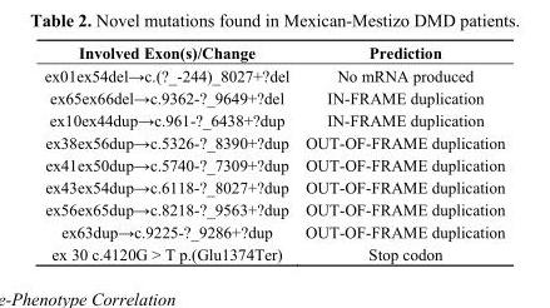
<table><thead><tr><td>Involved Exon(s)/Change</td><td>Prediction</td></tr></thead><tbody><tr><td>ex01ex54del→c.(?_-244)_8027+?del</td><td>No mRNA produced</td></tr><tr><td>ex65ex66del→c.9362-?_9649+?del</td><td>IN-FRAME duplication</td></tr><tr><td>ex10ex44dup→c.961-?_6438+?dup</td><td>IN-FRAME duplication</td></tr><tr><td>ex38ex56dup→c.5326-?_8390+?dup</td><td>OUT-OF-FRAME duplication</td></tr><tr><td>ex41ex50dup→c.5740-?_7309+?dup</td><td>OUT-OF-FRAME duplication</td></tr><tr><td>ex43ex54dup→c.6118-?_8027+?dup</td><td>OUT-OF-FRAME duplication</td></tr><tr><td>ex56ex65dup→c.8218-?_9563+?dup</td><td>OUT-OF-FRAME duplication</td></tr><tr><td>ex63dup→c.9225-?_9286+?dup</td><td>OUT-OF-FRAME duplication</td></tr><tr><td>ex 30 c.4120G &gt; T p.(Glu1374Ter)</td><td>Stop codon</td></tr></tbody></table>